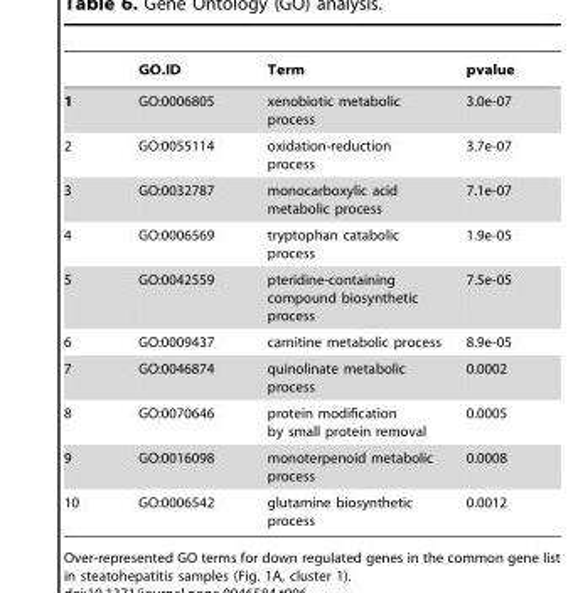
<table><thead><tr><td></td><td>GO.ID</td><td>Term</td><td>pvalue</td></tr></thead><tbody><tr><td>1</td><td>GO:0006805</td><td>xenobiotic metabolic process</td><td>3.0e-07</td></tr><tr><td>2</td><td>GO:0055114</td><td>oxidation-reduction process</td><td>3.7e-07</td></tr><tr><td>3</td><td>GO:0032787</td><td>monocarboxylic acid metabolic process</td><td>7.1e-07</td></tr><tr><td>4</td><td>GO:0006569</td><td>tryptophan catabolic process</td><td>1.9e-05</td></tr><tr><td>5</td><td>GO:0042559</td><td>pteridine-containing compound biosynthetic process</td><td>7.5e-05</td></tr><tr><td>6</td><td>GO:0009437</td><td>carnitine metabolic process</td><td>8.9e-05</td></tr><tr><td>7</td><td>GO:0046874</td><td>quinolinate metabolic process</td><td>0.0002</td></tr><tr><td>8</td><td>GO:0070646</td><td>protein modification by small protein removal</td><td>0.0005</td></tr><tr><td>9</td><td>GO:0016098</td><td>monoterpenoid metabolic process</td><td>0.0008</td></tr><tr><td>10</td><td>GO:0006542</td><td>glutamine biosynthetic process</td><td>0.0012</td></tr></tbody></table>